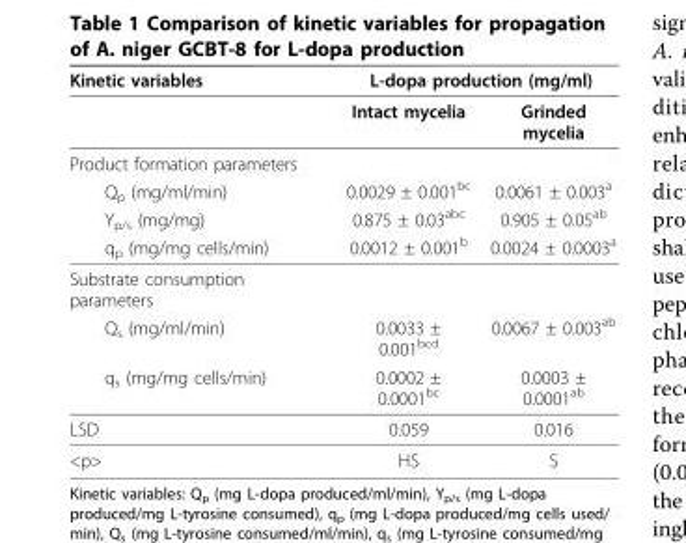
<table><thead><tr><td rowspan="2">Kinetic variables</td><td colspan="2">L-dopa production (mg/ml)</td></tr><tr><td>Intact mycelia</td><td>Grinded mycelia</td></tr></thead><tbody><tr><td colspan="3">Product formation parameters</td></tr><tr><td>Q<sub>p</sub> (mg/ml/min)</td><td>0.0029 ± 0.001<sup>bc</sup></td><td>0.0061 ± 0.003<sup>a</sup></td></tr><tr><td>Y<sub>p/s</sub> (mg/mg)</td><td>0.875 ± 0.03<sup>abc</sup></td><td>0.905 ± 0.05<sup>ab</sup></td></tr><tr><td>q<sub>p</sub> (mg/mg cells/min)</td><td>0.0012 ± 0.001<sup>b</sup></td><td>0.0024 ± 0.0003<sup>a</sup></td></tr><tr><td colspan="3">Substrate consumption parameters</td></tr><tr><td>Q<sub>s</sub> (mg/ml/min)</td><td>0.0033 ± 0.001<sup>bcd</sup></td><td>0.0067 ± 0.003<sup>ab</sup></td></tr><tr><td>q<sub>s</sub> (mg/mg cells/min)</td><td>0.0002 ± 0.0001<sup>bc</sup></td><td>0.0003 ± 0.0001<sup>ab</sup></td></tr><tr><td>LSD</td><td>0.059</td><td>0.016</td></tr><tr><td>&lt;p&gt;</td><td>HS</td><td>S</td></tr></tbody></table>